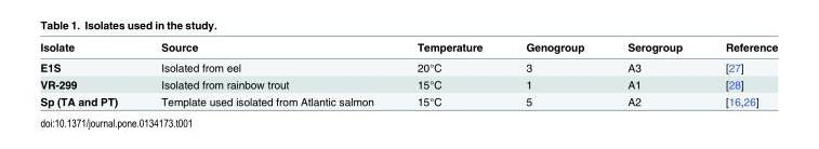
<table><thead><tr><td>Isolate</td><td>Source</td><td>Temperature</td><td>Genogroup</td><td>Serogroup</td><td>Reference</td></tr></thead><tbody><tr><td>E1S</td><td>Isolated from eel</td><td>20°C</td><td>3</td><td>A3</td><td>[27]</td></tr><tr><td>VR-299</td><td>Isolated from rainbow trout</td><td>15°C</td><td>1</td><td>A1</td><td>[28]</td></tr><tr><td>Sp (TA and PT)</td><td>Template used isolated from Atlantic salmon</td><td>15°C</td><td>5</td><td>A2</td><td>[16,26]</td></tr></tbody></table>